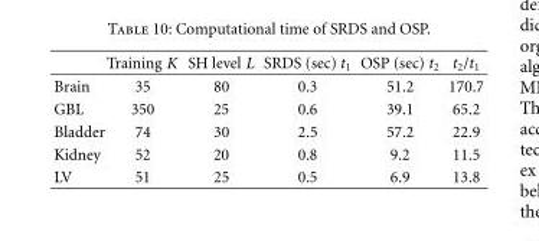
<table><thead><tr><td></td><td>Training K</td><td>SH level L</td><td>SRDS (sec) t<sub>1</sub></td><td>OSP (sec) t<sub>2</sub></td><td>t<sub>2</sub>/t<sub>1</sub></td></tr></thead><tbody><tr><td>Brain</td><td>35</td><td>80</td><td>0.3</td><td>51.2</td><td>170.7</td></tr><tr><td>GBL</td><td>350</td><td>25</td><td>0.6</td><td>39.1</td><td>65.2</td></tr><tr><td>Bladder</td><td>74</td><td>30</td><td>2.5</td><td>57.2</td><td>22.9</td></tr><tr><td>Kidney</td><td>52</td><td>20</td><td>0.8</td><td>9.2</td><td>11.5</td></tr><tr><td>LV</td><td>51</td><td>25</td><td>0.5</td><td>6.9</td><td>13.8</td></tr></tbody></table>